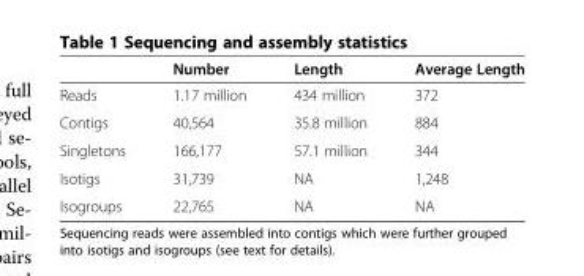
<table><thead><tr><td></td><td>Number</td><td>Length</td><td>Average Length</td></tr></thead><tbody><tr><td>Reads</td><td>1.17 million</td><td>434 million</td><td>372</td></tr><tr><td>Contigs</td><td>40,564</td><td>35.8 million</td><td>884</td></tr><tr><td>Singletons</td><td>166,177</td><td>57.1 million</td><td>344</td></tr><tr><td>Isotigs</td><td>31,739</td><td>NA</td><td>1,248</td></tr><tr><td>Isogroups</td><td>22,765</td><td>NA</td><td>NA</td></tr></tbody></table>